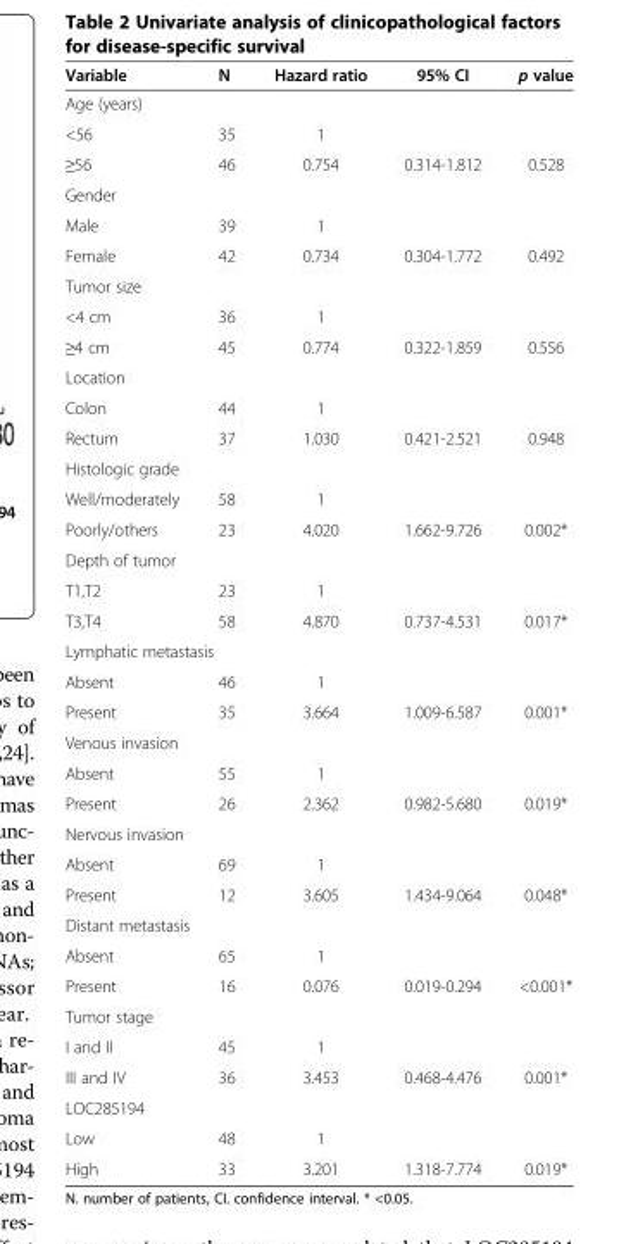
<table><thead><tr><td>Variable</td><td>N</td><td>Hazard ratio</td><td>95% CI</td><td>p value</td></tr></thead><tbody><tr><td colspan="5">Age (years)</td></tr><tr><td>&lt;56</td><td>35</td><td>1</td><td></td><td></td></tr><tr><td>≥56</td><td>46</td><td>0.754</td><td>0.314-1.812</td><td>0.528</td></tr><tr><td colspan="5">Gender</td></tr><tr><td>Male</td><td>39</td><td>1</td><td></td><td></td></tr><tr><td>Female</td><td>42</td><td>0.734</td><td>0.304-1.772</td><td>0.492</td></tr><tr><td colspan="5">Tumor size</td></tr><tr><td>&lt;4 cm</td><td>36</td><td>1</td><td></td><td></td></tr><tr><td>≥4 cm</td><td>45</td><td>0.774</td><td>0.322-1.859</td><td>0.556</td></tr><tr><td colspan="5">Location</td></tr><tr><td>Colon</td><td>44</td><td>1</td><td></td><td></td></tr><tr><td>Rectum</td><td>37</td><td>1.030</td><td>0.421-2.521</td><td>0.948</td></tr><tr><td colspan="5">Histologic grade</td></tr><tr><td>Well/moderately</td><td>58</td><td>1</td><td></td><td></td></tr><tr><td>Poorly/others</td><td>23</td><td>4.020</td><td>1.662-9.726</td><td>0.002*</td></tr><tr><td colspan="5">Depth of tumor</td></tr><tr><td>T1,T2</td><td>23</td><td>1</td><td></td><td></td></tr><tr><td>T3,T4</td><td>58</td><td>4.870</td><td>0.737-4.531</td><td>0.017*</td></tr><tr><td colspan="5">Lymphatic metastasis</td></tr><tr><td>Absent</td><td>46</td><td>1</td><td></td><td></td></tr><tr><td>Present</td><td>35</td><td>3.664</td><td>1.009-6.587</td><td>0.001*</td></tr><tr><td colspan="5">Venous invasion</td></tr><tr><td>Absent</td><td>55</td><td>1</td><td></td><td></td></tr><tr><td>Present</td><td>26</td><td>2.362</td><td>0.982-5.680</td><td>0.019*</td></tr><tr><td colspan="5">Nervous invasion</td></tr><tr><td>Absent</td><td>69</td><td>1</td><td></td><td></td></tr><tr><td>Present</td><td>12</td><td>3.605</td><td>1.434-9.064</td><td>0.048*</td></tr><tr><td colspan="5">Distant metastasis</td></tr><tr><td>Absent</td><td>65</td><td>1</td><td></td><td></td></tr><tr><td>Present</td><td>16</td><td>0.076</td><td>0.019-0.294</td><td>&lt;0.001*</td></tr><tr><td colspan="5">Tumor stage</td></tr><tr><td>I and II</td><td>45</td><td>1</td><td></td><td></td></tr><tr><td>III and IV</td><td>36</td><td>3.453</td><td>0.468-4.476</td><td>0.001*</td></tr><tr><td colspan="5">LOC285194</td></tr><tr><td>Low</td><td>48</td><td>1</td><td></td><td></td></tr><tr><td>High</td><td>33</td><td>3.201</td><td>1.318-7.774</td><td>0.019*</td></tr></tbody></table>